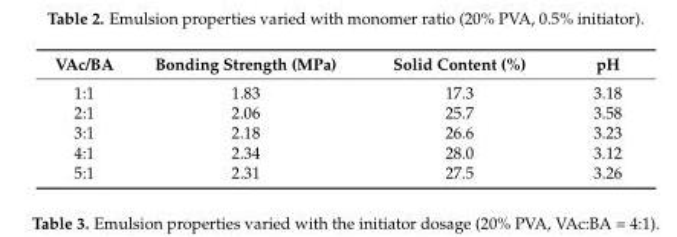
<table><thead><tr><td>VAc/BA</td><td>Bonding Strength (MPa)</td><td>Solid Content (%)</td><td>pH</td></tr></thead><tbody><tr><td>1:1</td><td>1.83</td><td>17.3</td><td>3.18</td></tr><tr><td>2:1</td><td>2.06</td><td>25.7</td><td>3.58</td></tr><tr><td>3:1</td><td>2.18</td><td>26.6</td><td>3.23</td></tr><tr><td>4:1</td><td>2.34</td><td>28.0</td><td>3.12</td></tr><tr><td>5:1</td><td>2.31</td><td>27.5</td><td>3.26</td></tr></tbody></table>